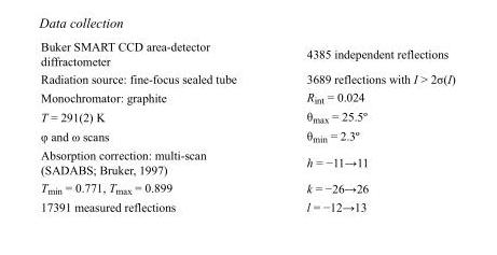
<table><tbody><tr><td>Buker SMART CCD area-detector diffractometer</td><td>4385 independent reflections</td></tr><tr><td>Radiation source: fine-focus sealed tube</td><td>3689 reflections with I &gt; 2σ(I)</td></tr><tr><td>Monochromator: graphite</td><td>R<sub>int</sub> = 0.024</td></tr><tr><td>T = 291(2) K</td><td>θ<sub>max</sub> = 25.5º</td></tr><tr><td>φ and ω scans</td><td>θ<sub>min</sub> = 2.3º</td></tr><tr><td>Absorption correction: multi-scan (SADABS; Bruker, 1997)</td><td>h = −11→11</td></tr><tr><td>T<sub>min</sub> = 0.771, T<sub>max</sub> = 0.899</td><td>k = −26→26</td></tr><tr><td>17391 measured reflections</td><td>l = −12→13</td></tr></tbody></table>